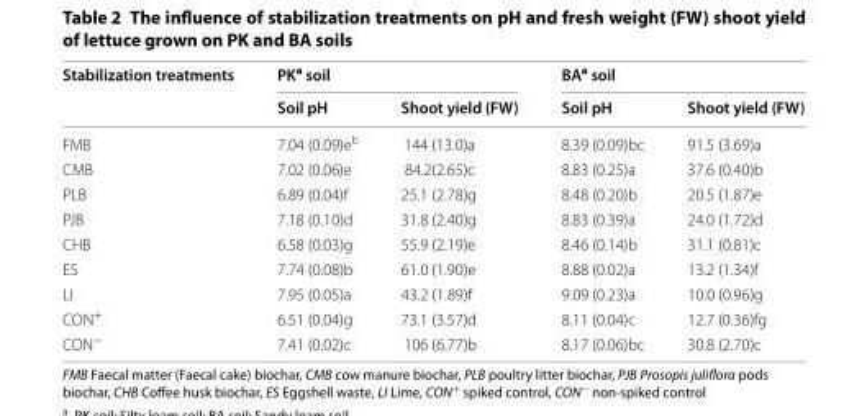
<table><thead><tr><td rowspan="2">Stabilization treatments</td><td colspan="2">PK<sup>a</sup> soil</td><td colspan="2">BA<sup>a</sup> soil</td></tr><tr><td>Soil pH</td><td>Shoot yield (FW)</td><td>Soil pH</td><td>Shoot yield (FW)</td></tr></thead><tbody><tr><td>FMB</td><td>7.04 (0.09)e<sup>b</sup></td><td>144 (13.0)a</td><td>8.39 (0.09)bc</td><td>91.5 (3.69)a</td></tr><tr><td>CMB</td><td>7.02 (0.06)e</td><td>84.2(2.65)c</td><td>8.83 (0.25)a</td><td>37.6 (0.40)b</td></tr><tr><td>PLB</td><td>6.89 (0.04)f</td><td>25.1 (2.78)g</td><td>8.48 (0.20)b</td><td>20.5 (1.87)e</td></tr><tr><td>PJB</td><td>7.18 (0.10)d</td><td>31.8 (2.40)g</td><td>8.83 (0.39)a</td><td>24.0 (1.72)d</td></tr><tr><td>CHB</td><td>6.58 (0.03)g</td><td>55.9 (2.19)e</td><td>8.46 (0.14)b</td><td>31.1 (0.81)c</td></tr><tr><td>ES</td><td>7.74 (0.08)b</td><td>61.0 (1.90)e</td><td>8.88 (0.02)a</td><td>13.2 (1.34)f</td></tr><tr><td>LI</td><td>7.95 (0.05)a</td><td>43.2 (1.89)f</td><td>9.09 (0.23)a</td><td>10.0 (0.96)g</td></tr><tr><td>CON<sup>+</sup></td><td>6.51 (0.04)g</td><td>73.1 (3.57)d</td><td>8.11 (0.04)c</td><td>12.7 (0.36)fg</td></tr><tr><td>CON<sup>−</sup></td><td>7.41 (0.02)c</td><td>106 (6.77)b</td><td>8.17 (0.06)bc</td><td>30.8 (2.70)c</td></tr></tbody></table>